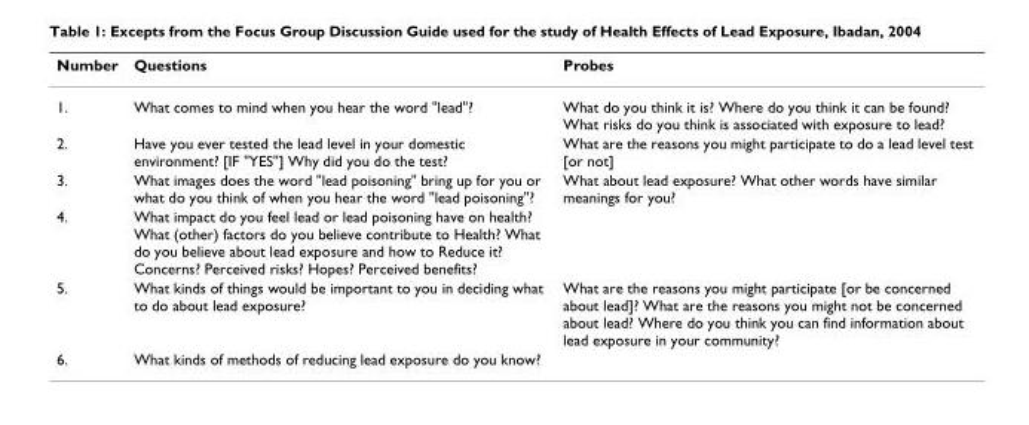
<table><thead><tr><td>Number</td><td>Questions</td><td>Probes</td></tr></thead><tbody><tr><td>1.</td><td>What comes to mind when you hear the word &quot;lead&quot;?</td><td>What do you think it is? Where do you think it can be found? What risks do you think is associated with exposure to lead?</td></tr><tr><td>2.</td><td>Have you ever tested the lead level in your domestic environment? [IF &quot;YES&quot;] Why did you do the test?</td><td>What are the reasons you might participate to do a lead level test [or not]</td></tr><tr><td>3.</td><td>What images does the word &quot;lead poisoning&quot; bring up for you or what do you think of when you hear the word &quot;lead poisoning&quot;?</td><td>What about lead exposure? What other words have similar meanings for you?</td></tr><tr><td>4.</td><td>What impact do you feel lead or lead poisoning have on health? What (other) factors do you believe contribute to Health? What do you believe about lead exposure and how to Reduce it? Concerns? Perceived risks? Hopes? Perceived benefits?</td><td></td></tr><tr><td>5.</td><td>What kinds of things would be important to you in deciding what to do about lead exposure?</td><td>What are the reasons you might participate [or be concerned about lead]? What are the reasons you might not be concerned about lead? Where do you think you can find information about lead exposure in your community?</td></tr><tr><td>6.</td><td>What kinds of methods of reducing lead exposure do you know?</td><td></td></tr></tbody></table>